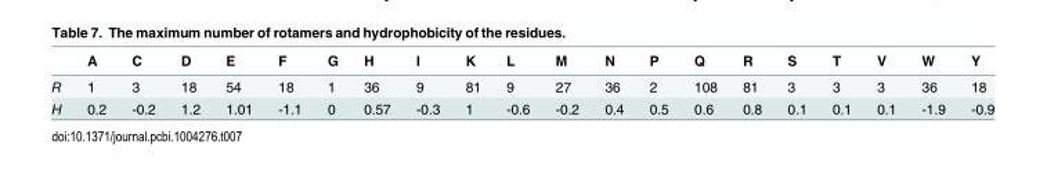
<table><thead><tr><td></td><td>A</td><td>C</td><td>D</td><td>E</td><td>F</td><td>G</td><td>H</td><td>I</td><td>K</td><td>L</td><td>M</td><td>N</td><td>P</td><td>Q</td><td>R</td><td>S</td><td>T</td><td>V</td><td>W</td><td>Y</td></tr></thead><tbody><tr><td>R</td><td>1</td><td>3</td><td>18</td><td>54</td><td>18</td><td>1</td><td>36</td><td>9</td><td>81</td><td>9</td><td>27</td><td>36</td><td>2</td><td>108</td><td>81</td><td>3</td><td>3</td><td>3</td><td>36</td><td>18</td></tr><tr><td>H</td><td>0.2</td><td>-0.2</td><td>1.2</td><td>1.01</td><td>-1.1</td><td>0</td><td>0.57</td><td>-0.3</td><td>1</td><td>-0.6</td><td>-0.2</td><td>0.4</td><td>0.5</td><td>0.6</td><td>0.8</td><td>0.1</td><td>0.1</td><td>0.1</td><td>-1.9</td><td>-0.9</td></tr></tbody></table>